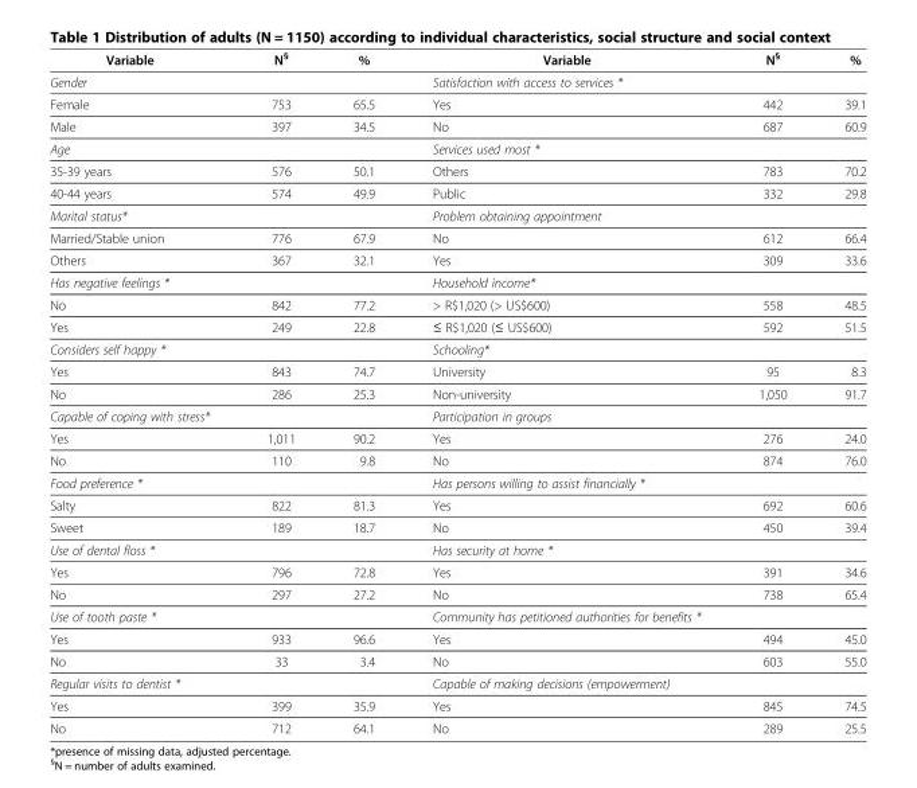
<table><thead><tr><td>Variable</td><td>N<sup>§</sup></td><td>%</td><td>Variable</td><td>N<sup>§</sup></td><td>%</td></tr></thead><tbody><tr><td>Gender</td><td></td><td></td><td>Satisfaction with access to services *</td><td></td><td></td></tr><tr><td>Female</td><td>753</td><td>65.5</td><td>Yes</td><td>442</td><td>39.1</td></tr><tr><td>Male</td><td>397</td><td>34.5</td><td>No</td><td>687</td><td>60.9</td></tr><tr><td>Age</td><td></td><td></td><td>Services used most *</td><td></td><td></td></tr><tr><td>35-39 years</td><td>576</td><td>50.1</td><td>Others</td><td>783</td><td>70.2</td></tr><tr><td>40-44 years</td><td>574</td><td>49.9</td><td>Public</td><td>332</td><td>29.8</td></tr><tr><td>Marital status*</td><td></td><td></td><td>Problem obtaining appointment</td><td></td><td></td></tr><tr><td>Married/Stable union</td><td>776</td><td>67.9</td><td>No</td><td>612</td><td>66.4</td></tr><tr><td>Others</td><td>367</td><td>32.1</td><td>Yes</td><td>309</td><td>33.6</td></tr><tr><td>Has negative feelings *</td><td></td><td></td><td>Household income*</td><td></td><td></td></tr><tr><td>No</td><td>842</td><td>77.2</td><td>&gt; R$1,020 (&gt; US$600)</td><td>558</td><td>48.5</td></tr><tr><td>Yes</td><td>249</td><td>22.8</td><td>≤ R$1,020 (≤ US$600)</td><td>592</td><td>51.5</td></tr><tr><td>Considers self happy *</td><td></td><td></td><td>Schooling*</td><td></td><td></td></tr><tr><td>Yes</td><td>843</td><td>74.7</td><td>University</td><td>95</td><td>8.3</td></tr><tr><td>No</td><td>286</td><td>25.3</td><td>Non-university</td><td>1,050</td><td>91.7</td></tr><tr><td>Capable of coping with stress*</td><td></td><td></td><td>Participation in groups</td><td></td><td></td></tr><tr><td>Yes</td><td>1,011</td><td>90.2</td><td>Yes</td><td>276</td><td>24.0</td></tr><tr><td>No</td><td>110</td><td>9.8</td><td>No</td><td>874</td><td>76.0</td></tr><tr><td>Food preference *</td><td></td><td></td><td>Has persons willing to assist financially *</td><td></td><td></td></tr><tr><td>Salty</td><td>822</td><td>81.3</td><td>Yes</td><td>692</td><td>60.6</td></tr><tr><td>Sweet</td><td>189</td><td>18.7</td><td>No</td><td>450</td><td>39.4</td></tr><tr><td>Use of dental floss *</td><td></td><td></td><td>Has security at home *</td><td></td><td></td></tr><tr><td>Yes</td><td>796</td><td>72.8</td><td>Yes</td><td>391</td><td>34.6</td></tr><tr><td>No</td><td>297</td><td>27.2</td><td>No</td><td>738</td><td>65.4</td></tr><tr><td>Use of tooth paste *</td><td></td><td></td><td>Community has petitioned authorities for benefits *</td><td></td><td></td></tr><tr><td>Yes</td><td>933</td><td>96.6</td><td>Yes</td><td>494</td><td>45.0</td></tr><tr><td>No</td><td>33</td><td>3.4</td><td>No</td><td>603</td><td>55.0</td></tr><tr><td>Regular visits to dentist *</td><td></td><td></td><td>Capable of making decisions (empowerment)</td><td></td><td></td></tr><tr><td>Yes</td><td>399</td><td>35.9</td><td>Yes</td><td>845</td><td>74.5</td></tr><tr><td>No</td><td>712</td><td>64.1</td><td>No</td><td>289</td><td>25.5</td></tr></tbody></table>